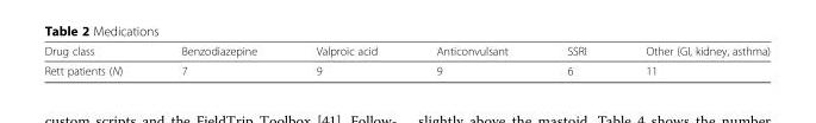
<table><thead><tr><td>Drug class</td><td>Benzodiazepine</td><td>Valproic acid</td><td>Anticonvulsant</td><td>SSRI</td><td>Other (GI, kidney, asthma)</td></tr></thead><tbody><tr><td>Rett patients (N)</td><td>7</td><td>9</td><td>9</td><td>6</td><td>11</td></tr></tbody></table>